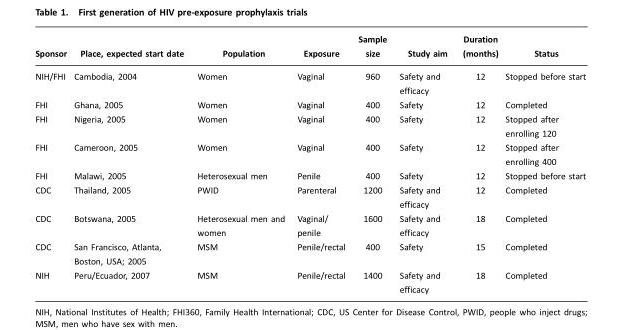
<table><thead><tr><td>Sponsor</td><td>Place, expected start date</td><td>Population</td><td>Exposure</td><td>Sample size</td><td>Study aim</td><td>Duration (months)</td><td>Status</td></tr></thead><tbody><tr><td>NIH/FHI</td><td>Cambodia, 2004</td><td>Women</td><td>Vaginal</td><td>960</td><td>Safety and efficacy</td><td>12</td><td>Stopped before start</td></tr><tr><td>FHI</td><td>Ghana, 2005</td><td>Women</td><td>Vaginal</td><td>400</td><td>Safety</td><td>12</td><td>Completed</td></tr><tr><td>FHI</td><td>Nigeria, 2005</td><td>Women</td><td>Vaginal</td><td>400</td><td>Safety</td><td>12</td><td>Stopped after enrolling 120</td></tr><tr><td>FHI</td><td>Cameroon, 2005</td><td>Women</td><td>Vaginal</td><td>400</td><td>Safety</td><td>12</td><td>Stopped after enrolling 400</td></tr><tr><td>FHI</td><td>Malawi, 2005</td><td>Heterosexual men</td><td>Penile</td><td>400</td><td>Safety</td><td>12</td><td>Stopped before start</td></tr><tr><td>CDC</td><td>Thailand, 2005</td><td>PWID</td><td>Parenteral</td><td>1200</td><td>Safety and efficacy</td><td>12</td><td>Completed</td></tr><tr><td>CDC</td><td>Botswana, 2005</td><td>Heterosexual men and women</td><td>Vaginal/ penile</td><td>1600</td><td>Safety and efficacy</td><td>18</td><td>Completed</td></tr><tr><td>CDC</td><td>San Francisco, Atlanta, Boston, USA; 2005</td><td>MSM</td><td>Penile/rectal</td><td>400</td><td>Safety</td><td>15</td><td>Completed</td></tr><tr><td>NIH</td><td>Peru/Ecuador, 2007</td><td>MSM</td><td>Penile/rectal</td><td>1400</td><td>Safety and efficacy</td><td>18</td><td>Completed</td></tr></tbody></table>